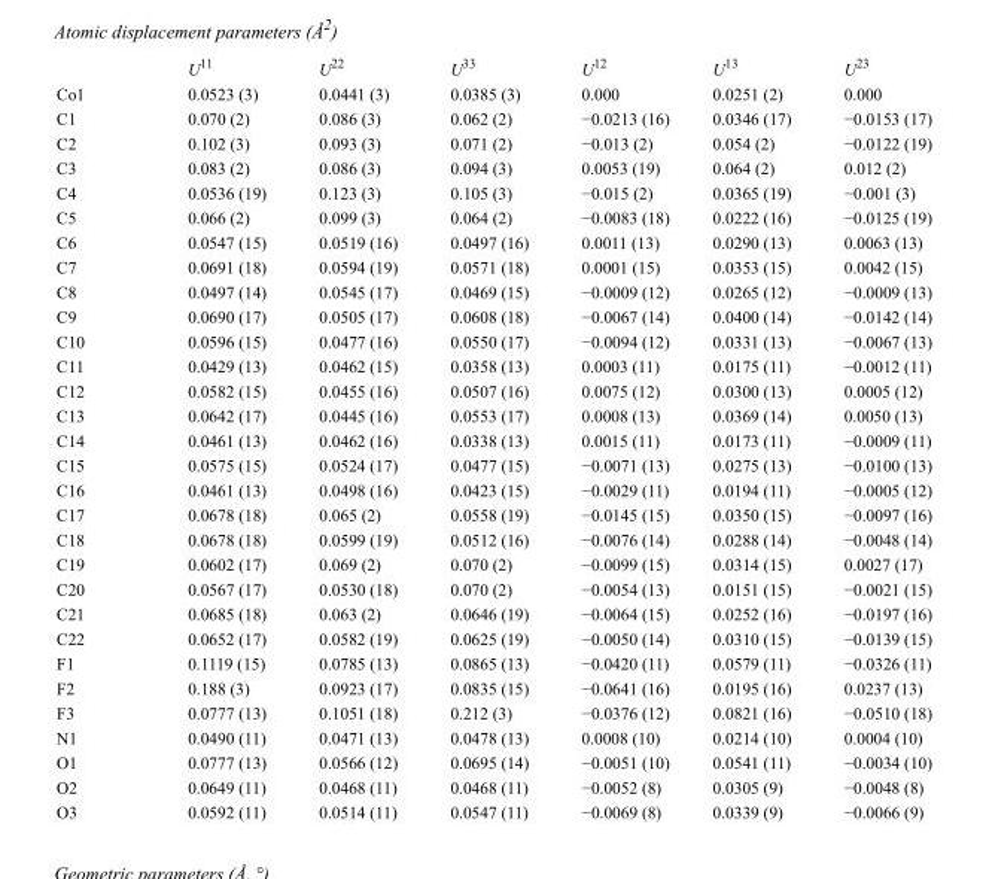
<table><thead><tr><td></td><td>U<sup>11</sup></td><td>U<sup>22</sup></td><td>U<sup>33</sup></td><td>U<sup>12</sup></td><td>U<sup>13</sup></td><td>U<sup>23</sup></td></tr></thead><tbody><tr><td>Co1</td><td>0.0523 (3)</td><td>0.0441 (3)</td><td>0.0385 (3)</td><td>0.000</td><td>0.0251 (2)</td><td>0.000</td></tr><tr><td>C1</td><td>0.070 (2)</td><td>0.086 (3)</td><td>0.062 (2)</td><td>−0.0213 (16)</td><td>0.0346 (17)</td><td>−0.0153 (17)</td></tr><tr><td>C2</td><td>0.102 (3)</td><td>0.093 (3)</td><td>0.071 (2)</td><td>−0.013 (2)</td><td>0.054 (2)</td><td>−0.0122 (19)</td></tr><tr><td>C3</td><td>0.083 (2)</td><td>0.086 (3)</td><td>0.094 (3)</td><td>0.0053 (19)</td><td>0.064 (2)</td><td>0.012 (2)</td></tr><tr><td>C4</td><td>0.0536 (19)</td><td>0.123 (3)</td><td>0.105 (3)</td><td>−0.015 (2)</td><td>0.0365 (19)</td><td>−0.001 (3)</td></tr><tr><td>C5</td><td>0.066 (2)</td><td>0.099 (3)</td><td>0.064 (2)</td><td>−0.0083 (18)</td><td>0.0222 (16)</td><td>−0.0125 (19)</td></tr><tr><td>C6</td><td>0.0547 (15)</td><td>0.0519 (16)</td><td>0.0497 (16)</td><td>0.0011 (13)</td><td>0.0290 (13)</td><td>0.0063 (13)</td></tr><tr><td>C7</td><td>0.0691 (18)</td><td>0.0594 (19)</td><td>0.0571 (18)</td><td>0.0001 (15)</td><td>0.0353 (15)</td><td>0.0042 (15)</td></tr><tr><td>C8</td><td>0.0497 (14)</td><td>0.0545 (17)</td><td>0.0469 (15)</td><td>−0.0009 (12)</td><td>0.0265 (12)</td><td>−0.0009 (13)</td></tr><tr><td>C9</td><td>0.0690 (17)</td><td>0.0505 (17)</td><td>0.0608 (18)</td><td>−0.0067 (14)</td><td>0.0400 (14)</td><td>−0.0142 (14)</td></tr><tr><td>C10</td><td>0.0596 (15)</td><td>0.0477 (16)</td><td>0.0550 (17)</td><td>−0.0094 (12)</td><td>0.0331 (13)</td><td>−0.0067 (13)</td></tr><tr><td>C11</td><td>0.0429 (13)</td><td>0.0462 (15)</td><td>0.0358 (13)</td><td>0.0003 (11)</td><td>0.0175 (11)</td><td>−0.0012 (11)</td></tr><tr><td>C12</td><td>0.0582 (15)</td><td>0.0455 (16)</td><td>0.0507 (16)</td><td>0.0075 (12)</td><td>0.0300 (13)</td><td>0.0005 (12)</td></tr><tr><td>C13</td><td>0.0642 (17)</td><td>0.0445 (16)</td><td>0.0553 (17)</td><td>0.0008 (13)</td><td>0.0369 (14)</td><td>0.0050 (13)</td></tr><tr><td>C14</td><td>0.0461 (13)</td><td>0.0462 (16)</td><td>0.0338 (13)</td><td>0.0015 (11)</td><td>0.0173 (11)</td><td>−0.0009 (11)</td></tr><tr><td>C15</td><td>0.0575 (15)</td><td>0.0524 (17)</td><td>0.0477 (15)</td><td>−0.0071 (13)</td><td>0.0275 (13)</td><td>−0.0100 (13)</td></tr><tr><td>C16</td><td>0.0461 (13)</td><td>0.0498 (16)</td><td>0.0423 (15)</td><td>−0.0029 (11)</td><td>0.0194 (11)</td><td>−0.0005 (12)</td></tr><tr><td>C17</td><td>0.0678 (18)</td><td>0.065 (2)</td><td>0.0558 (19)</td><td>−0.0145 (15)</td><td>0.0350 (15)</td><td>−0.0097 (16)</td></tr><tr><td>C18</td><td>0.0678 (18)</td><td>0.0599 (19)</td><td>0.0512 (16)</td><td>−0.0076 (14)</td><td>0.0288 (14)</td><td>−0.0048 (14)</td></tr><tr><td>C19</td><td>0.0602 (17)</td><td>0.069 (2)</td><td>0.070 (2)</td><td>−0.0099 (15)</td><td>0.0314 (15)</td><td>0.0027 (17)</td></tr><tr><td>C20</td><td>0.0567 (17)</td><td>0.0530 (18)</td><td>0.070 (2)</td><td>−0.0054 (13)</td><td>0.0151 (15)</td><td>−0.0021 (15)</td></tr><tr><td>C21</td><td>0.0685 (18)</td><td>0.063 (2)</td><td>0.0646 (19)</td><td>−0.0064 (15)</td><td>0.0252 (16)</td><td>−0.0197 (16)</td></tr><tr><td>C22</td><td>0.0652 (17)</td><td>0.0582 (19)</td><td>0.0625 (19)</td><td>−0.0050 (14)</td><td>0.0310 (15)</td><td>−0.0139 (15)</td></tr><tr><td>F1</td><td>0.1119 (15)</td><td>0.0785 (13)</td><td>0.0865 (13)</td><td>−0.0420 (11)</td><td>0.0579 (11)</td><td>−0.0326 (11)</td></tr><tr><td>F2</td><td>0.188 (3)</td><td>0.0923 (17)</td><td>0.0835 (15)</td><td>−0.0641 (16)</td><td>0.0195 (16)</td><td>0.0237 (13)</td></tr><tr><td>F3</td><td>0.0777 (13)</td><td>0.1051 (18)</td><td>0.212 (3)</td><td>−0.0376 (12)</td><td>0.0821 (16)</td><td>−0.0510 (18)</td></tr><tr><td>N1</td><td>0.0490 (11)</td><td>0.0471 (13)</td><td>0.0478 (13)</td><td>0.0008 (10)</td><td>0.0214 (10)</td><td>0.0004 (10)</td></tr><tr><td>O1</td><td>0.0777 (13)</td><td>0.0566 (12)</td><td>0.0695 (14)</td><td>−0.0051 (10)</td><td>0.0541 (11)</td><td>−0.0034 (10)</td></tr><tr><td>O2</td><td>0.0649 (11)</td><td>0.0468 (11)</td><td>0.0468 (11)</td><td>−0.0052 (8)</td><td>0.0305 (9)</td><td>−0.0048 (8)</td></tr><tr><td>O3</td><td>0.0592 (11)</td><td>0.0514 (11)</td><td>0.0547 (11)</td><td>−0.0069 (8)</td><td>0.0339 (9)</td><td>−0.0066 (9)</td></tr></tbody></table>